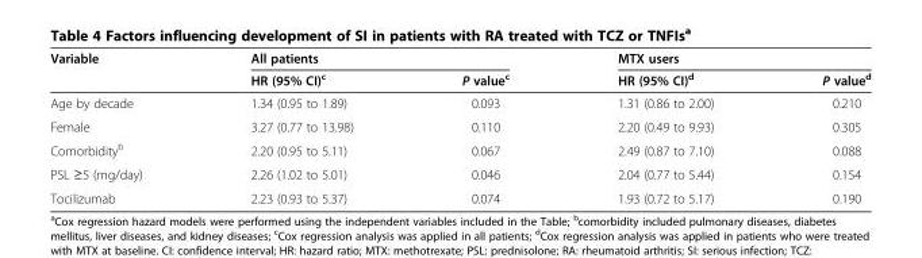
<table><thead><tr><td rowspan="2">Variable</td><td colspan="2">All patients</td><td colspan="2">MTX users</td></tr><tr><td>HR (95% CI)<sup>c</sup></td><td>P value<sup>c</sup></td><td>HR (95% CI)<sup>d</sup></td><td>P value<sup>d</sup></td></tr></thead><tbody><tr><td>Age by decade</td><td>1.34 (0.95 to 1.89)</td><td>0.093</td><td>1.31 (0.86 to 2.00)</td><td>0.210</td></tr><tr><td>Female</td><td>3.27 (0.77 to 13.98)</td><td>0.110</td><td>2.20 (0.49 to 9.93)</td><td>0.305</td></tr><tr><td>Comorbidity<sup>b</sup></td><td>2.20 (0.95 to 5.11)</td><td>0.067</td><td>2.49 (0.87 to 7.10)</td><td>0.088</td></tr><tr><td>PSL ≥5 (mg/day)</td><td>2.26 (1.02 to 5.01)</td><td>0.046</td><td>2.04 (0.77 to 5.44)</td><td>0.154</td></tr><tr><td>Tocilizumab</td><td>2.23 (0.93 to 5.37)</td><td>0.074</td><td>1.93 (0.72 to 5.17)</td><td>0.190</td></tr></tbody></table>